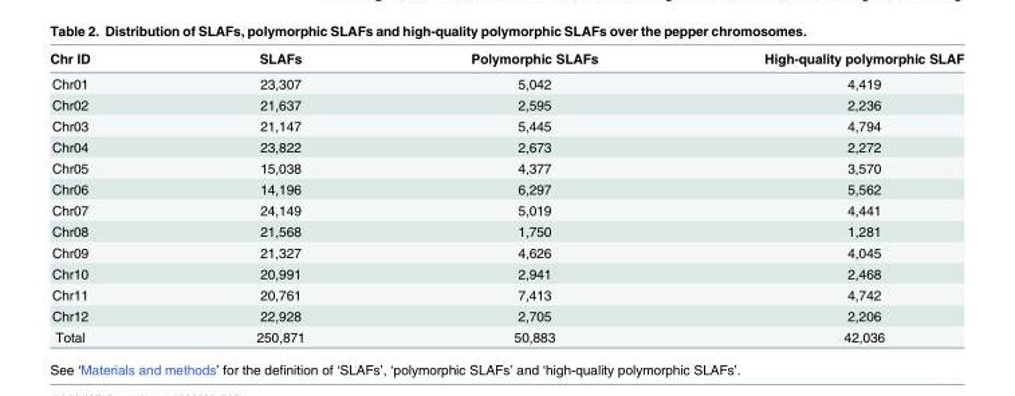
<table><thead><tr><td>Chr ID</td><td>SLAFs</td><td>Polymorphic SLAFs</td><td>High-quality polymorphic SLAF</td></tr></thead><tbody><tr><td>Chr01</td><td>23,307</td><td>5,042</td><td>4,419</td></tr><tr><td>Chr02</td><td>21,637</td><td>2,595</td><td>2,236</td></tr><tr><td>Chr03</td><td>21,147</td><td>5,445</td><td>4,794</td></tr><tr><td>Chr04</td><td>23,822</td><td>2,673</td><td>2,272</td></tr><tr><td>Chr05</td><td>15,038</td><td>4,377</td><td>3,570</td></tr><tr><td>Chr06</td><td>14,196</td><td>6,297</td><td>5,562</td></tr><tr><td>Chr07</td><td>24,149</td><td>5,019</td><td>4,441</td></tr><tr><td>Chr08</td><td>21,568</td><td>1,750</td><td>1,281</td></tr><tr><td>Chr09</td><td>21,327</td><td>4,626</td><td>4,045</td></tr><tr><td>Chr10</td><td>20,991</td><td>2,941</td><td>2,468</td></tr><tr><td>Chr11</td><td>20,761</td><td>7,413</td><td>4,742</td></tr><tr><td>Chr12</td><td>22,928</td><td>2,705</td><td>2,206</td></tr><tr><td>Total</td><td>250,871</td><td>50,883</td><td>42,036</td></tr></tbody></table>